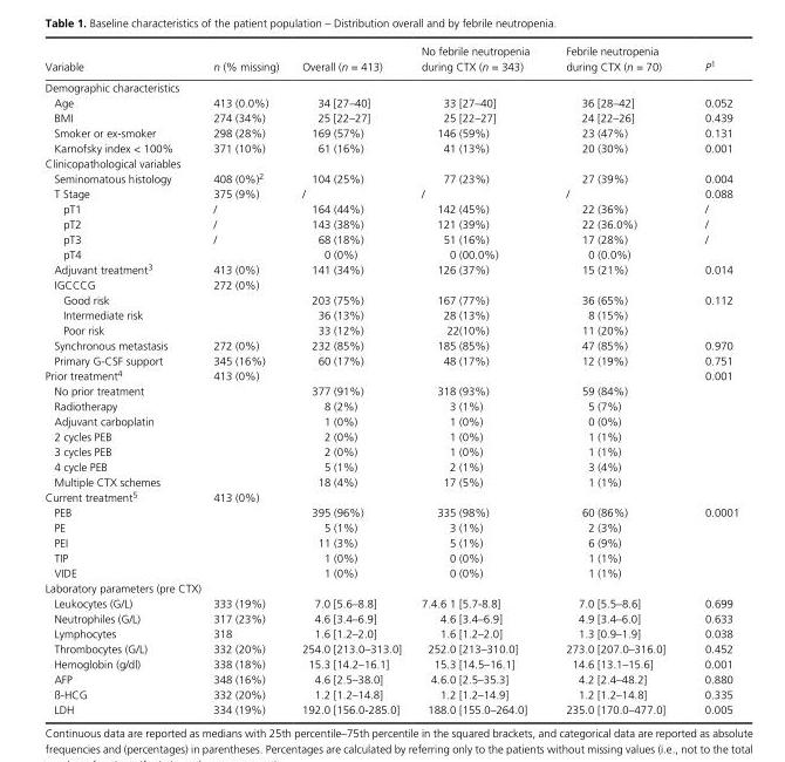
<table><thead><tr><td>Variable</td><td>n (% missing)</td><td>Overall (n = 413)</td><td>No febrile neutropenia during CTX (n = 343)</td><td>Febrile neutropenia during CTX (n = 70)</td><td>P1</td></tr></thead><tbody><tr><td colspan="6">Demographic characteristics</td></tr><tr><td>Age</td><td>413 (0.0%)</td><td>34 [27–40]</td><td>33 [27–40]</td><td>36 [28–42]</td><td>0.052</td></tr><tr><td>BMI</td><td>274 (34%)</td><td>25 [22–27]</td><td>25 [22–27]</td><td>24 [22–26]</td><td>0.439</td></tr><tr><td>Smoker or ex- smoker</td><td>298 (28%)</td><td>169 (57%)</td><td>146 (59%)</td><td>23 (47%)</td><td>0.131</td></tr><tr><td>Karnofsky index &lt; 100%</td><td>371 (10%)</td><td>61 (16%)</td><td>41 (13%)</td><td>20 (30%)</td><td>0.001</td></tr><tr><td colspan="6">Clinicopathological variables</td></tr><tr><td>Seminomatous histology</td><td>408 (0%)2</td><td>104 (25%)</td><td>77 (23%)</td><td>27 (39%)</td><td>0.004</td></tr><tr><td>T Stage</td><td>375 (9%)</td><td>/</td><td>/</td><td>/</td><td>0.088</td></tr><tr><td>pT1</td><td>/</td><td>164 (44%)</td><td>142 (45%)</td><td>22 (36%)</td><td>/</td></tr><tr><td>pT2</td><td>/</td><td>143 (38%)</td><td>121 (39%)</td><td>22 (36.0%)</td><td>/</td></tr><tr><td>pT3</td><td>/</td><td>68 (18%)</td><td>51 (16%)</td><td>17 (28%)</td><td>/</td></tr><tr><td>pT4</td><td></td><td>0 (0%)</td><td>0 (00.0%)</td><td>0 (0.0%)</td><td></td></tr><tr><td>Adjuvant treatment3</td><td>413 (0%)</td><td>141 (34%)</td><td>126 (37%)</td><td>15 (21%)</td><td>0.014</td></tr><tr><td>IGCCCG</td><td>272 (0%)</td><td></td><td></td><td></td><td></td></tr><tr><td>Good risk</td><td></td><td>203 (75%)</td><td>167 (77%)</td><td>36 (65%)</td><td>0.112</td></tr><tr><td>Intermediate risk</td><td></td><td>36 (13%)</td><td>28 (13%)</td><td>8 (15%)</td><td></td></tr><tr><td>Poor risk</td><td></td><td>33 (12%)</td><td>22(10%)</td><td>11 (20%)</td><td></td></tr><tr><td>Synchronous metastasis</td><td>272 (0%)</td><td>232 (85%)</td><td>185 (85%)</td><td>47 (85%)</td><td>0.970</td></tr><tr><td>Primary G- CSF support</td><td>345 (16%)</td><td>60 (17%)</td><td>48 (17%)</td><td>12 (19%)</td><td>0.751</td></tr><tr><td>Prior treatment4</td><td>413 (0%)</td><td></td><td></td><td></td><td>0.001</td></tr><tr><td>No prior treatment</td><td></td><td>377 (91%)</td><td>318 (93%)</td><td>59 (84%)</td><td></td></tr><tr><td>Radiotherapy</td><td></td><td>8 (2%)</td><td>3 (1%)</td><td>5 (7%)</td><td></td></tr><tr><td>Adjuvant carboplatin</td><td></td><td>1 (0%)</td><td>1 (0%)</td><td>0 (0%)</td><td></td></tr><tr><td>2 cycles PEB</td><td></td><td>2 (0%)</td><td>1 (0%)</td><td>1 (1%)</td><td></td></tr><tr><td>3 cycles PEB</td><td></td><td>2 (0%)</td><td>1 (0%)</td><td>1 (1%)</td><td></td></tr><tr><td>4 cycle PEB</td><td></td><td>5 (1%)</td><td>2 (1%)</td><td>3 (4%)</td><td></td></tr><tr><td>Multiple CTX schemes</td><td></td><td>18 (4%)</td><td>17 (5%)</td><td>1 (1%)</td><td></td></tr><tr><td>Current treatment5</td><td>413 (0%)</td><td></td><td></td><td></td><td></td></tr><tr><td>PEB</td><td></td><td>395 (96%)</td><td>335 (98%)</td><td>60 (86%)</td><td>0.0001</td></tr><tr><td>PE</td><td></td><td>5 (1%)</td><td>3 (1%)</td><td>2 (3%)</td><td></td></tr><tr><td>PEI</td><td></td><td>11 (3%)</td><td>5 (1%)</td><td>6 (9%)</td><td></td></tr><tr><td>TIP</td><td></td><td>1 (0%)</td><td>0 (0%)</td><td>1 (1%)</td><td></td></tr><tr><td>VIDE</td><td></td><td>1 (0%)</td><td>0 (0%)</td><td>1 (1%)</td><td></td></tr><tr><td colspan="6">Laboratory parameters (pre CTX)</td></tr><tr><td>Leukocytes (G/L)</td><td>333 (19%)</td><td>7.0 [5.6–8.8]</td><td>7.4.6 1 [5.7- 8.8]</td><td>7.0 [5.5–8.6]</td><td>0.699</td></tr><tr><td>Neutrophiles (G/L)</td><td>317 (23%)</td><td>4.6 [3.4–6.9]</td><td>4.6 [3.4–6.9]</td><td>4.9 [3.4–6.0]</td><td>0.633</td></tr><tr><td>Lymphocytes</td><td>318</td><td>1.6 [1.2–2.0]</td><td>1.6 [1.2–2.0]</td><td>1.3 [0.9–1.9]</td><td>0.038</td></tr><tr><td>Thrombocytes (G/L)</td><td>332 (20%)</td><td>254.0 [213.0–313.0]</td><td>252.0 [213–310.0]</td><td>273.0 [207.0–316.0]</td><td>0.452</td></tr><tr><td>Hemoglobin (g/dl)</td><td>338 (18%)</td><td>15.3 [14.2–16.1]</td><td>15.3 [14.5–16.1]</td><td>14.6 [13.1–15.6]</td><td>0.001</td></tr><tr><td>AFP</td><td>348 (16%)</td><td>4.6 [2.5–38.0]</td><td>4.6.0 [2.5–35.3]</td><td>4.2 [2.4–48.2]</td><td>0.880</td></tr><tr><td>ß- HCG</td><td>332 (20%)</td><td>1.2 [1.2–14.8]</td><td>1.2 [1.2–14.9]</td><td>1.2 [1.2–14.8]</td><td>0.335</td></tr><tr><td>LDH</td><td>334 (19%)</td><td>192.0 [156.0- 285.0]</td><td>188.0 [155.0–264.0]</td><td>235.0 [170.0–477.0]</td><td>0.005</td></tr></tbody></table>